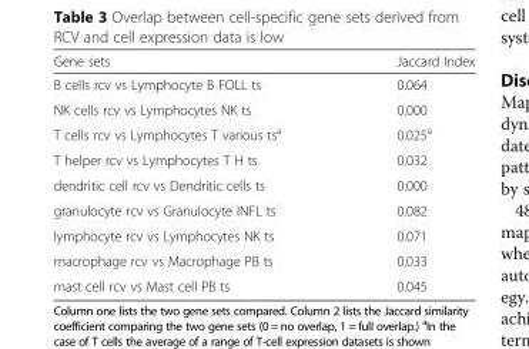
<table><thead><tr><td>Gene sets</td><td>Jaccard Index</td></tr></thead><tbody><tr><td>B cells rcv vs Lymphocyte B FOLL ts</td><td>0.064</td></tr><tr><td>NK cells rcv vs Lymphocytes NK ts</td><td>0.000</td></tr><tr><td>T cells rcv vs Lymphocytes T various ts<sup>a</sup></td><td>0.025<sup>a</sup></td></tr><tr><td>T helper rcv vs Lymphocytes T H ts</td><td>0.032</td></tr><tr><td>dendritic cell rcv vs Dendritic cells ts</td><td>0.000</td></tr><tr><td>granulocyte rcv vs Granulocyte INFL ts</td><td>0.082</td></tr><tr><td>lymphocyte rcv vs Lymphocytes NK ts</td><td>0.071</td></tr><tr><td>macrophage rcv vs Macrophage PB ts</td><td>0.033</td></tr><tr><td>mast cell rcv vs Mast cell PB ts</td><td>0.045</td></tr></tbody></table>